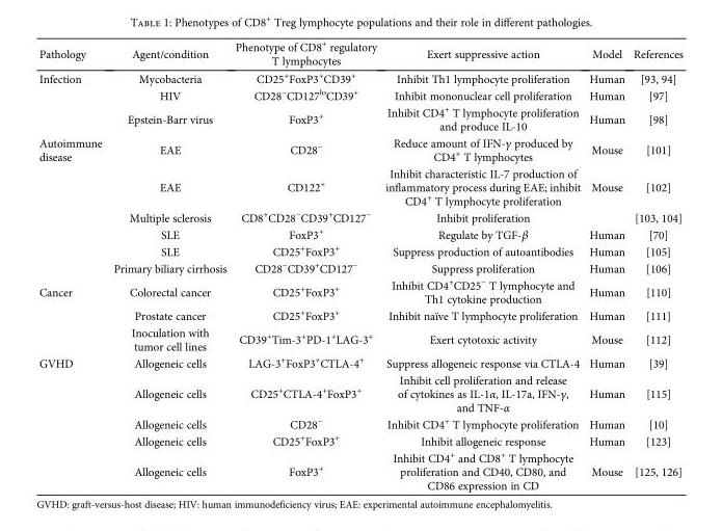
<table><thead><tr><td>Pathology</td><td>Agent/condition</td><td>Phenotype of CD8<sup>+</sup> regulatory T lymphocytes</td><td>Exert suppressive action</td><td>Model</td><td>References</td></tr></thead><tbody><tr><td rowspan="3">Infection</td><td>Mycobacteria</td><td>CD25<sup>+</sup>FoxP3<sup>+</sup>CD39<sup>+</sup></td><td>Inhibit Th1 lymphocyte proliferation</td><td>Human</td><td>[93, 94]</td></tr><tr><td>HIV</td><td>CD28<sup>−</sup>CD127<sup>lo</sup>CD39<sup>+</sup></td><td>Inhibit mononuclear cell proliferation</td><td>Human</td><td>[97]</td></tr><tr><td>Epstein-Barr virus</td><td>FoxP3<sup>+</sup></td><td>Inhibit CD4<sup>+</sup> T lymphocyte proliferation and produce IL-10</td><td>Human</td><td>[98]</td></tr><tr><td rowspan="6">Autoimmune disease</td><td>EAE</td><td>CD28<sup>−</sup></td><td>Reduce amount of IFN-γ produced by CD4<sup>+</sup> T lymphocytes</td><td>Mouse</td><td>[101]</td></tr><tr><td>EAE</td><td>CD122<sup>+</sup></td><td>Inhibit characteristic IL-7 production of inflammatory process during EAE; inhibit CD4<sup>+</sup> T lymphocyte proliferation</td><td>Mouse</td><td>[102]</td></tr><tr><td>Multiple sclerosis</td><td>CD8<sup>+</sup>CD28<sup>−</sup>CD39<sup>+</sup>CD127<sup>−</sup></td><td>Inhibit proliferation</td><td></td><td>[103, 104]</td></tr><tr><td>SLE</td><td>FoxP3<sup>+</sup></td><td>Regulate by TGF-β</td><td>Human</td><td>[70]</td></tr><tr><td>SLE</td><td>CD25<sup>+</sup>FoxP3<sup>+</sup></td><td>Suppress production of autoantibodies</td><td>Human</td><td>[105]</td></tr><tr><td>Primary biliary cirrhosis</td><td>CD28<sup>−</sup>CD39<sup>+</sup>CD127<sup>−</sup></td><td>Suppress proliferation</td><td>Human</td><td>[106]</td></tr><tr><td rowspan="3">Cancer</td><td>Colorectal cancer</td><td>CD25<sup>+</sup>FoxP3<sup>+</sup></td><td>Inhibit CD4<sup>+</sup>CD25<sup>−</sup> T lymphocyte and Th1 cytokine production</td><td>Human</td><td>[110]</td></tr><tr><td>Prostate cancer</td><td>CD25<sup>+</sup>FoxP3<sup>+</sup></td><td>Inhibit naïve T lymphocyte proliferation</td><td>Human</td><td>[111]</td></tr><tr><td>Inoculation with tumor cell lines</td><td>CD39<sup>+</sup>Tim-3<sup>+</sup>PD-1<sup>+</sup>LAG-3<sup>+</sup></td><td>Exert cytotoxic activity</td><td>Mouse</td><td>[112]</td></tr><tr><td rowspan="5">GVHD</td><td>Allogeneic cells</td><td>LAG-3<sup>+</sup>FoxP3<sup>+</sup>CTLA-4<sup>+</sup></td><td>Suppress allogeneic response via CTLA-4</td><td>Human</td><td>[39]</td></tr><tr><td>Allogeneic cells</td><td>CD25<sup>+</sup>CTLA-4<sup>+</sup>FoxP3<sup>+</sup></td><td>Inhibit cell proliferation and release of cytokines as IL-1α, IL-17a, IFN-γ, and TNF-α</td><td>Human</td><td>[115]</td></tr><tr><td>Allogeneic cells</td><td>CD28<sup>−</sup></td><td>Inhibit CD4<sup>+</sup> T lymphocyte proliferation</td><td>Human</td><td>[10]</td></tr><tr><td>Allogeneic cells</td><td>CD25<sup>+</sup>FoxP3<sup>+</sup></td><td>Inhibit allogeneic response</td><td>Human</td><td>[123]</td></tr><tr><td>Allogeneic cells</td><td>FoxP3<sup>+</sup></td><td>Inhibit CD4<sup>+</sup> and CD8<sup>+</sup> T lymphocyte proliferation and CD40, CD80, and CD86 expression in CD</td><td>Mouse</td><td>[125, 126]</td></tr></tbody></table>